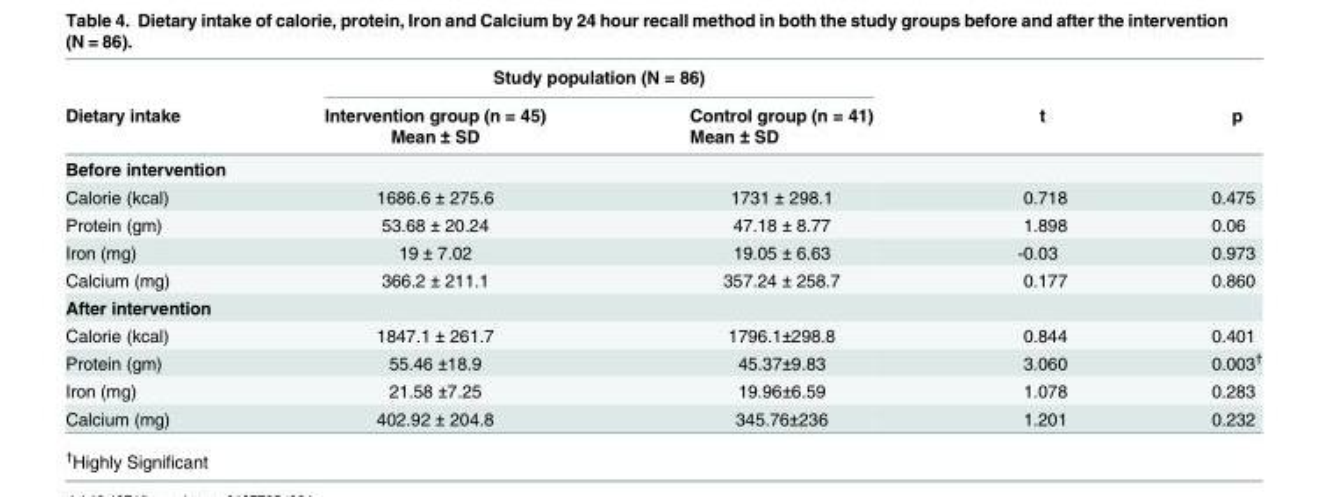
<table><thead><tr><td rowspan="3">Dietary intake</td><td colspan="2">Study population (N = 86)</td><td rowspan="3">t</td><td rowspan="3">p</td></tr><tr><td rowspan="2">Intervention group (n = 45) Mean ± SD</td><td rowspan="2">Control group (n = 41) Mean ± SD</td></tr><tr></tr></thead><tbody><tr><td colspan="5">Before intervention</td></tr><tr><td>Calorie (kcal)</td><td>1686.6 ± 275.6</td><td>1731 ± 298.1</td><td>0.718</td><td>0.475</td></tr><tr><td>Protein (gm)</td><td>53.68 ± 20.24</td><td>47.18 ± 8.77</td><td>1.898</td><td>0.06</td></tr><tr><td>Iron (mg)</td><td>19 ± 7.02</td><td>19.05 ± 6.63</td><td>-0.03</td><td>0.973</td></tr><tr><td>Calcium (mg)</td><td>366.2 ± 211.1</td><td>357.24 ± 258.7</td><td>0.177</td><td>0.860</td></tr><tr><td colspan="5">After intervention</td></tr><tr><td>Calorie (kcal)</td><td>1847.1 ± 261.7</td><td>1796.1±298.8</td><td>0.844</td><td>0.401</td></tr><tr><td>Protein (gm)</td><td>55.46 ±18.9</td><td>45.37±9.83</td><td>3.060</td><td>0.003<sup>†</sup></td></tr><tr><td>Iron (mg)</td><td>21.58 ±7.25</td><td>19.96±6.59</td><td>1.078</td><td>0.283</td></tr><tr><td>Calcium (mg)</td><td>402.92 ± 204.8</td><td>345.76±236</td><td>1.201</td><td>0.232</td></tr></tbody></table>